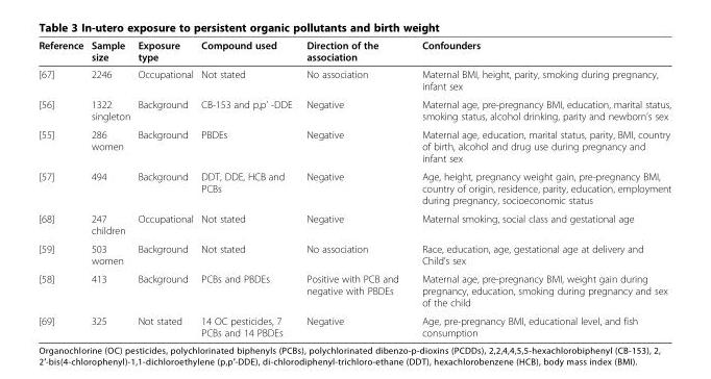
<table><thead><tr><td>Reference</td><td>Sample size</td><td>Exposure type</td><td>Compound used</td><td>Direction of the association</td><td>Confounders</td></tr></thead><tbody><tr><td>[67]</td><td>2246</td><td>Occupational</td><td>Not stated</td><td>No association</td><td>Maternal BMI, height, parity, smoking during pregnancy, infant sex</td></tr><tr><td>[56]</td><td>1322 singleton</td><td>Background</td><td>CB-153 and p,p’ -DDE</td><td>Negative</td><td>Maternal age, pre-pregnancy BMI, education, marital status, smoking status, alcohol drinking, parity and newborn’s sex</td></tr><tr><td>[55]</td><td>286 women</td><td>Background</td><td>PBDEs</td><td>Negative</td><td>Maternal age, education, marital status, parity, BMI, country of birth, alcohol and drug use during pregnancy and infant sex</td></tr><tr><td>[57]</td><td>494</td><td>Background</td><td>DDT, DDE, HCB and PCBs</td><td>Negative</td><td>Age, height, pregnancy weight gain, pre-pregnancy BMI, country of origin, residence, parity, education, employment during pregnancy, socioeconomic status</td></tr><tr><td>[68]</td><td>247 children</td><td>Occupational</td><td>Not stated</td><td>Negative</td><td>Maternal smoking, social class and gestational age</td></tr><tr><td>[59]</td><td>503 women</td><td>Background</td><td>Not stated</td><td>No association</td><td>Race, education, age, gestational age at delivery and Child’s sex</td></tr><tr><td>[58]</td><td>413</td><td>Background</td><td>PCBs and PBDEs</td><td>Positive with PCB and negative with PBDEs</td><td>Maternal age, pre-pregnancy BMI, weight gain during pregnancy, education, smoking during pregnancy and sex of the child</td></tr><tr><td>[69]</td><td>325</td><td>Not stated</td><td>14 OC pesticides, 7 PCBs and 14 PBDEs</td><td>Negative</td><td>Age, pre-pregnancy BMI, educational level, and fish consumption</td></tr></tbody></table>